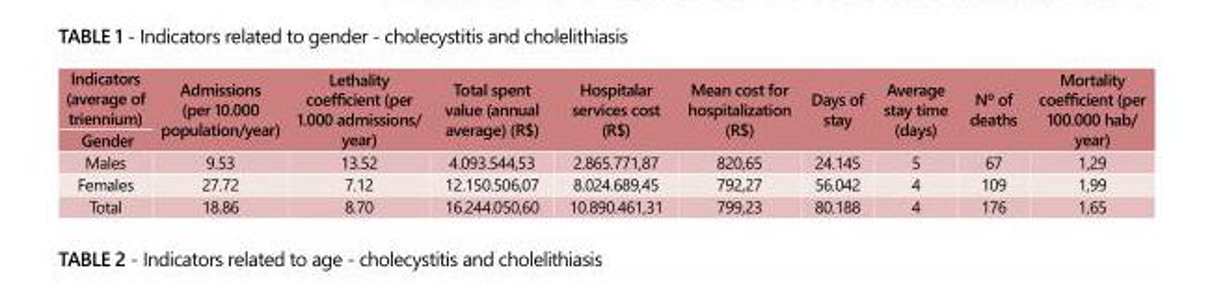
<table><tbody><tr><td>Indicators (average of triennium)</td><td rowspan="2">Admissions (per 10.000 population/year)</td><td rowspan="2">Lethality coefficient (per 1.000 admissions/ year)</td><td rowspan="2">Total spent value (annual average) (R$)</td><td rowspan="2">Hospitalar services cost (R$)</td><td rowspan="2">Mean cost for hospitalization (R$)</td><td rowspan="2">Days of stay</td><td rowspan="2">Average stay time (days)</td><td rowspan="2">Nº of deaths</td><td rowspan="2">Mortality coefficient (per 100.000 hab/ year)</td></tr><tr><td>Gender</td></tr><tr><td>Males</td><td>9.53</td><td>13.52</td><td>4.093.544,53</td><td>2.865.771,87</td><td>820,65</td><td>24.145</td><td>5</td><td>67</td><td>1,29</td></tr><tr><td>Females</td><td>27.72</td><td>7.12</td><td>12.150.506,07</td><td>8.024.689,45</td><td>792,27</td><td>56.042</td><td>4</td><td>109</td><td>1,99</td></tr><tr><td>Total</td><td>18.86</td><td>8.70</td><td>16.244.050,60</td><td>10.890.461,31</td><td>799,23</td><td>80.188</td><td>4</td><td>176</td><td>1,65</td></tr></tbody></table>